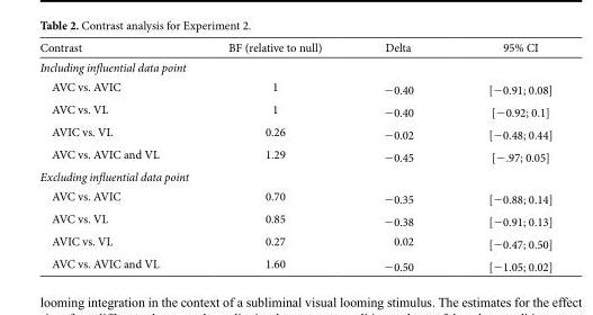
<table><thead><tr><td>Contrast</td><td>BF (relative to null)</td><td>Delta</td><td>95% CI</td></tr></thead><tbody><tr><td colspan="4">Including influential data point</td></tr><tr><td>AVC vs. AVIC</td><td>1</td><td>−0.40</td><td>[−0.91; 0.08]</td></tr><tr><td>AVC vs. VL</td><td>1</td><td>−0.40</td><td>[−0.92; 0.1]</td></tr><tr><td>AVIC vs. VL</td><td>0.26</td><td>−0.02</td><td>[−0.48; 0.44]</td></tr><tr><td>AVC vs. AVIC and VL</td><td>1.29</td><td>−0.45</td><td>[−.97; 0.05]</td></tr><tr><td colspan="4">Excluding influential data point</td></tr><tr><td>AVC vs. AVIC</td><td>0.70</td><td>−0.35</td><td>[−0.88; 0.14]</td></tr><tr><td>AVC vs. VL</td><td>0.85</td><td>−0.38</td><td>[−0.91; 0.13]</td></tr><tr><td>AVIC vs. VL</td><td>0.27</td><td>0.02</td><td>[−0.47; 0.50]</td></tr><tr><td>AVC vs. AVIC and VL</td><td>1.60</td><td>−0.50</td><td>[−1.05; 0.02]</td></tr></tbody></table>